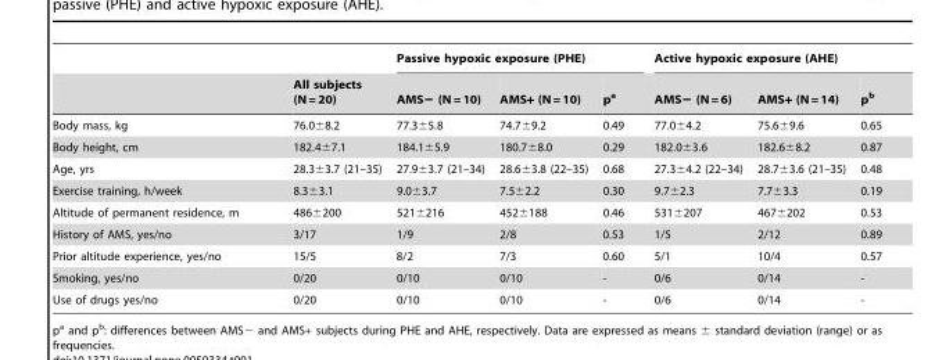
<table><thead><tr><td rowspan="2"></td><td rowspan="2">All subjects (N = 20)</td><td colspan="3">Passive hypoxic exposure (PHE)</td><td colspan="3">Active hypoxic exposure (AHE)</td></tr><tr><td>AMS− (N = 10)</td><td>AMS+ (N = 10)</td><td>p<sup>a</sup></td><td>AMS− (N = 6)</td><td>AMS+ (N = 14)</td><td>p<sup>b</sup></td></tr></thead><tbody><tr><td>Body mass, kg</td><td>76.0±8.2</td><td>77.3±5.8</td><td>74.7±9.2</td><td>0.49</td><td>77.0±4.2</td><td>75.6±9.6</td><td>0.65</td></tr><tr><td>Body height, cm</td><td>182.4±7.1</td><td>184.1±5.9</td><td>180.7±8.0</td><td>0.29</td><td>182.0±3.6</td><td>182.6±8.2</td><td>0.87</td></tr><tr><td>Age, yrs</td><td>28.3±3.7 (21–35)</td><td>27.9±3.7 (21–34)</td><td>28.6±3.8 (22–35)</td><td>0.68</td><td>27.3±4.2 (22–34)</td><td>28.7±3.6 (21–35)</td><td>0.48</td></tr><tr><td>Exercise training, h/week</td><td>8.3±3.1</td><td>9.0±3.7</td><td>7.5±2.2</td><td>0.30</td><td>9.7±2.3</td><td>7.7±3.3</td><td>0.19</td></tr><tr><td>Altitude of permanent residence, m</td><td>486±200</td><td>521±216</td><td>452±188</td><td>0.46</td><td>531±207</td><td>467±202</td><td>0.53</td></tr><tr><td>History of AMS, yes/no</td><td>3/17</td><td>1/9</td><td>2/8</td><td>0.53</td><td>1/5</td><td>2/12</td><td>0.89</td></tr><tr><td>Prior altitude experience, yes/no</td><td>15/5</td><td>8/2</td><td>7/3</td><td>0.60</td><td>5/1</td><td>10/4</td><td>0.57</td></tr><tr><td>Smoking, yes/no</td><td>0/20</td><td>0/10</td><td>0/10</td><td>-</td><td>0/6</td><td>0/14</td><td>-</td></tr><tr><td>Use of drugs yes/no</td><td>0/20</td><td>0/10</td><td>0/10</td><td>-</td><td>0/6</td><td>0/14</td><td>-</td></tr></tbody></table>